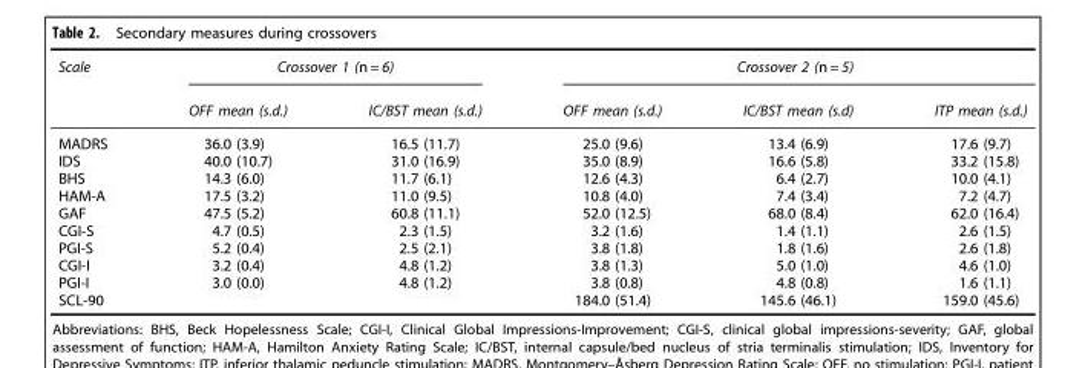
<table><thead><tr><td rowspan="2">Scale</td><td colspan="2">Crossover 1 (n = 6)</td><td colspan="3">Crossover 2 (n = 5)</td></tr><tr><td>OFF mean (s.d.)</td><td>IC/BST mean (s.d.)</td><td>OFF mean (s.d.)</td><td>IC/BST mean (s.d)</td><td>ITP mean (s.d.)</td></tr></thead><tbody><tr><td>MADRS</td><td>36.0 (3.9)</td><td>16.5 (11.7)</td><td>25.0 (9.6)</td><td>13.4 (6.9)</td><td>17.6 (9.7)</td></tr><tr><td>IDS</td><td>40.0 (10.7)</td><td>31.0 (16.9)</td><td>35.0 (8.9)</td><td>16.6 (5.8)</td><td>33.2 (15.8)</td></tr><tr><td>BHS</td><td>14.3 (6.0)</td><td>11.7 (6.1)</td><td>12.6 (4.3)</td><td>6.4 (2.7)</td><td>10.0 (4.1)</td></tr><tr><td>HAM-A</td><td>17.5 (3.2)</td><td>11.0 (9.5)</td><td>10.8 (4.0)</td><td>7.4 (3.4)</td><td>7.2 (4.7)</td></tr><tr><td>GAF</td><td>47.5 (5.2)</td><td>60.8 (11.1)</td><td>52.0 (12.5)</td><td>68.0 (8.4)</td><td>62.0 (16.4)</td></tr><tr><td>CGI-S</td><td>4.7 (0.5)</td><td>2.3 (1.5)</td><td>3.2 (1.6)</td><td>1.4 (1.1)</td><td>2.6 (1.5)</td></tr><tr><td>PGI-S</td><td>5.2 (0.4)</td><td>2.5 (2.1)</td><td>3.8 (1.8)</td><td>1.8 (1.6)</td><td>2.6 (1.8)</td></tr><tr><td>CGI-I</td><td>3.2 (0.4)</td><td>4.8 (1.2)</td><td>3.8 (1.3)</td><td>5.0 (1.0)</td><td>4.6 (1.0)</td></tr><tr><td>PGI-I</td><td>3.0 (0.0)</td><td>4.8 (1.2)</td><td>3.8 (0.8)</td><td>4.8 (0.8)</td><td>1.6 (1.1)</td></tr><tr><td>SCL-90</td><td></td><td></td><td>184.0 (51.4)</td><td>145.6 (46.1)</td><td>159.0 (45.6)</td></tr></tbody></table>